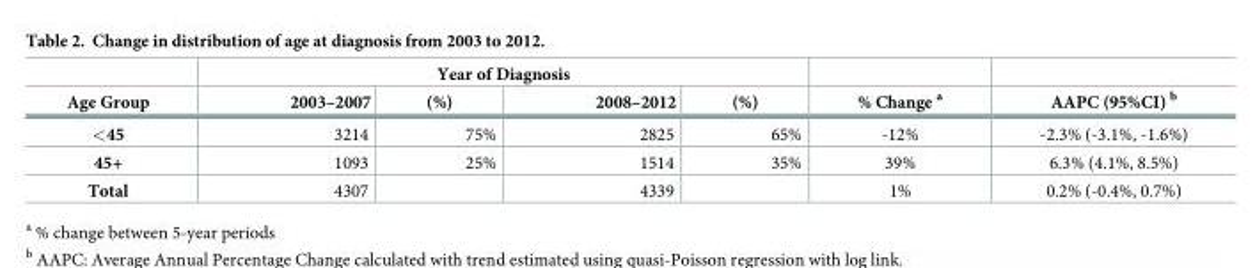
<table><thead><tr><td rowspan="2">Age Group</td><td colspan="4">Year of Diagnosis</td><td rowspan="2">% Change <sup>a</sup></td><td rowspan="2">AAPC (95%CI) <sup>b</sup></td></tr><tr><td>2003–2007</td><td>(%)</td><td>2008–2012</td><td>(%)</td></tr></thead><tbody><tr><td>&lt;45</td><td>3214</td><td>75%</td><td>2825</td><td>65%</td><td>-12%</td><td>-2.3% (-3.1%, -1.6%)</td></tr><tr><td>45+</td><td>1093</td><td>25%</td><td>1514</td><td>35%</td><td>39%</td><td>6.3% (4.1%, 8.5%)</td></tr><tr><td>Total</td><td>4307</td><td></td><td>4339</td><td></td><td>1%</td><td>0.2% (-0.4%, 0.7%)</td></tr></tbody></table>